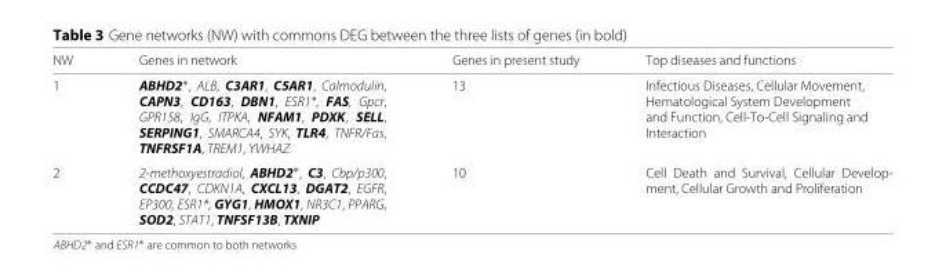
<table><thead><tr><td>NW</td><td>Genes in network</td><td>Genes in present study</td><td>Top diseases and functions</td></tr></thead><tbody><tr><td>1</td><td>ABHD2∗, ALB, C3AR1, C5AR1, Calmodulin, CAPN3, CD163, DBN1, ESR1*, FAS, Gpcr, GPR158, IgG, ITPKA, NFAM1, PDXK, SELL, SERPING1, SMARCA4, SYK, TLR4, TNFR/Fas, TNFRSF1A, TREM1, YWHAZ</td><td>13</td><td>Infectious Diseases, Cellular Movement, Hematological System Development and Function, Cell-To-Cell Signaling and Interaction</td></tr><tr><td>2</td><td>2-methoxyestradiol, ABHD2∗, C3, Cbp/p300, CCDC47, CDKN1A, CXCL13, DGAT2, EGFR, EP300, ESR1*, GYG1, HMOX1, NR3C1, PPARG, SOD2, STAT1, TNFSF13B, TXNIP</td><td>10</td><td>Cell Death and Survival, Cellular Develop- ment, Cellular Growth and Proliferation</td></tr></tbody></table>